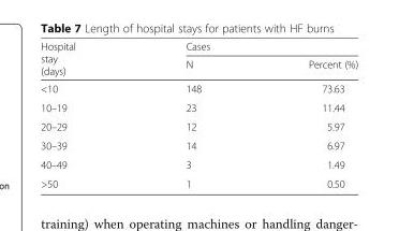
<table><thead><tr><td rowspan="2">Hospital stay (days)</td><td colspan="2">Cases</td></tr><tr><td>N</td><td>Percent (%)</td></tr></thead><tbody><tr><td>&lt;10</td><td>148</td><td>73.63</td></tr><tr><td>10–19</td><td>23</td><td>11.44</td></tr><tr><td>20–29</td><td>12</td><td>5.97</td></tr><tr><td>30–39</td><td>14</td><td>6.97</td></tr><tr><td>40–49</td><td>3</td><td>1.49</td></tr><tr><td>&gt;50</td><td>1</td><td>0.50</td></tr></tbody></table>